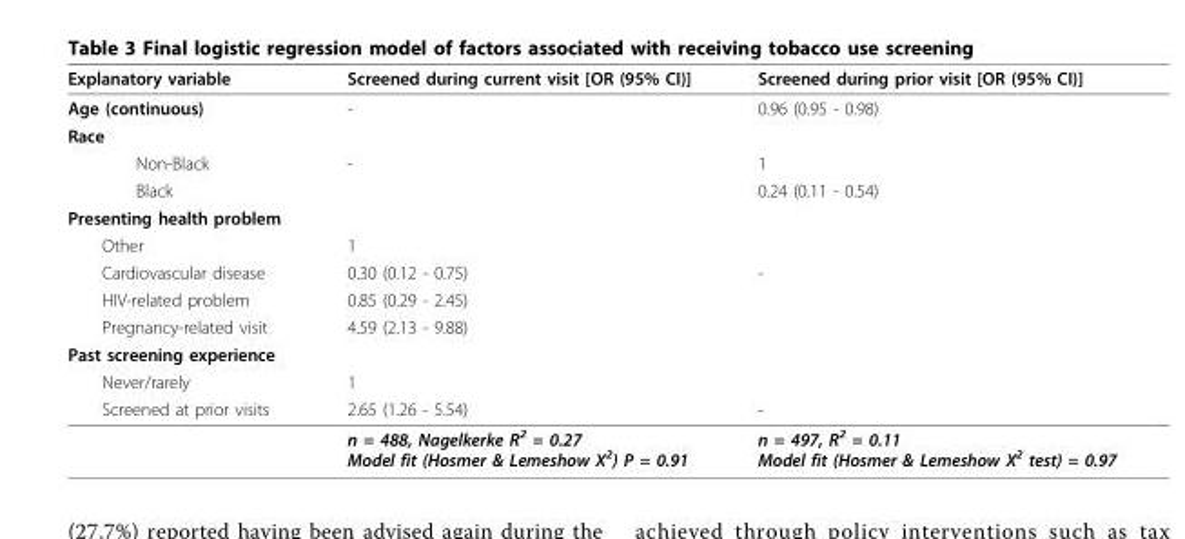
<table><thead><tr><td>Explanatory variable</td><td>Screened during current visit [OR (95% CI)]</td><td>Screened during prior visit [OR (95% CI)]</td></tr></thead><tbody><tr><td>Age (continuous)</td><td>-</td><td>0.96 (0.95 - 0.98)</td></tr><tr><td colspan="3">Race</td></tr><tr><td>Non-Black</td><td>-</td><td>1</td></tr><tr><td>Black</td><td></td><td>0.24 (0.11 - 0.54)</td></tr><tr><td colspan="3">Presenting health problem</td></tr><tr><td>Other</td><td>1</td><td></td></tr><tr><td>Cardiovascular disease</td><td>0.30 (0.12 - 0.75)</td><td>-</td></tr><tr><td>HIV-related problem</td><td>0.85 (0.29 - 2.45)</td><td></td></tr><tr><td>Pregnancy-related visit</td><td>4.59 (2.13 - 9.88)</td><td></td></tr><tr><td colspan="3">Past screening experience</td></tr><tr><td>Never/rarely</td><td>1</td><td></td></tr><tr><td rowspan="2">Screened at prior visits</td><td>2.65 (1.26 - 5.54)</td><td>-</td></tr><tr><td>n = 488, Nagelkerke R<sup>2</sup> = 0.27 Model fit (Hosmer &amp; Lemeshow X<sup>2</sup>) P = 0.91</td><td>n = 497, R<sup>2</sup> = 0.11 Model fit (Hosmer &amp; Lemeshow X<sup>2</sup> test) = 0.97</td></tr></tbody></table>